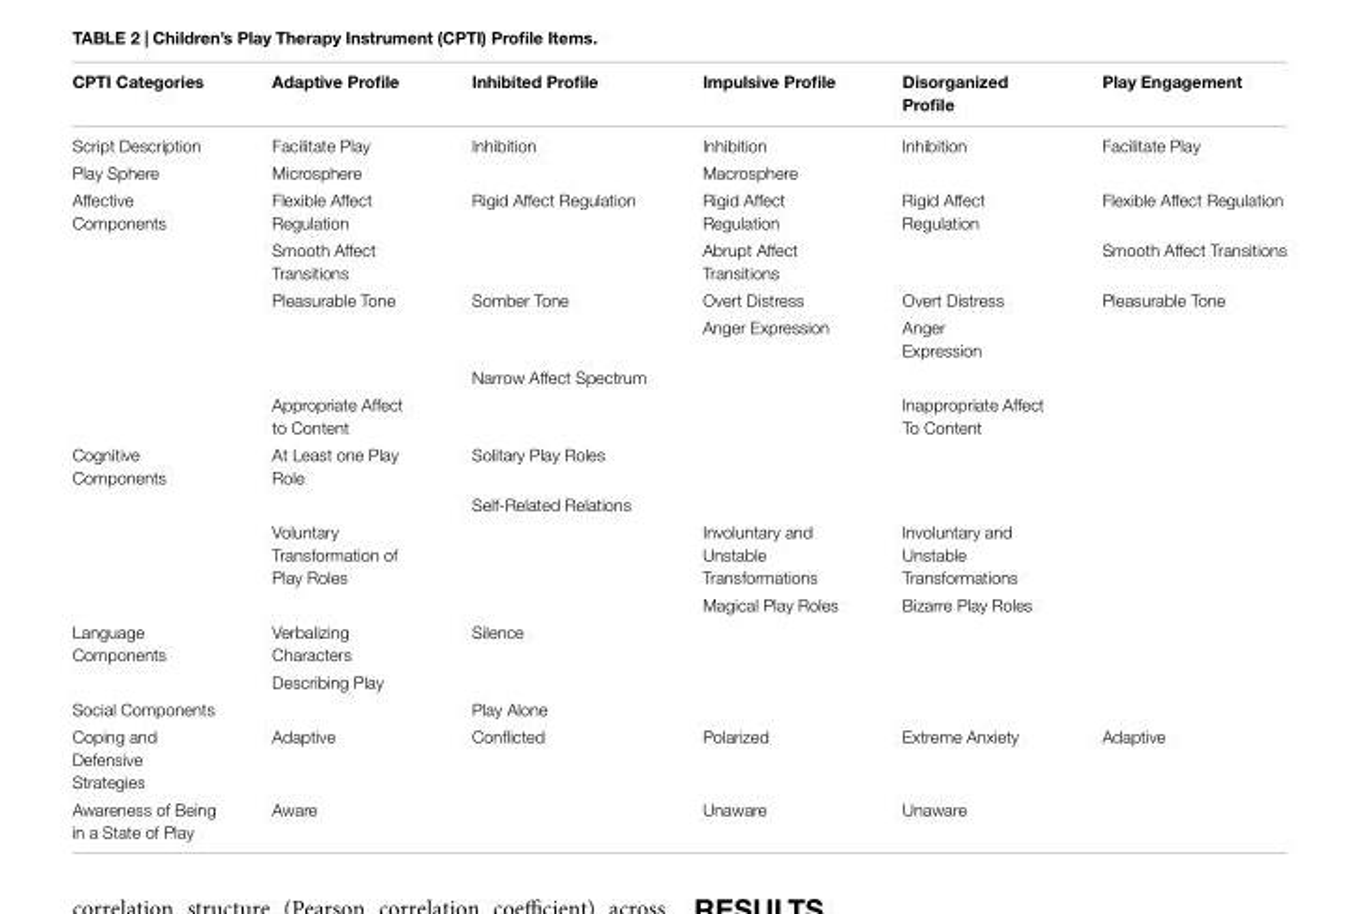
<table><thead><tr><td>CPTI Categories</td><td>Adaptive Profile</td><td>Inhibited Profile</td><td>Impulsive Profile</td><td>Disorganized Profile</td><td>Play Engagement</td></tr></thead><tbody><tr><td>Script Description</td><td>Facilitate Play</td><td>Inhibition</td><td>Inhibition</td><td>Inhibition</td><td>Facilitate Play</td></tr><tr><td>Play Sphere</td><td>Microsphere</td><td></td><td>Macrosphere</td><td></td><td></td></tr><tr><td rowspan="6">Affective Components</td><td>Flexible Affect Regulation</td><td>Rigid Affect Regulation</td><td>Rigid Affect Regulation</td><td>Rigid Affect Regulation</td><td>Flexible Affect Regulation</td></tr><tr><td>Smooth Affect Transitions</td><td></td><td>Abrupt Affect Transitions</td><td></td><td>Smooth Affect Transitions</td></tr><tr><td>Pleasurable Tone</td><td>Somber Tone</td><td>Overt Distress</td><td>Overt Distress</td><td>Pleasurable Tone</td></tr><tr><td></td><td></td><td>Anger Expression</td><td>Anger Expression</td><td></td></tr><tr><td></td><td>Narrow Affect Spectrum</td><td></td><td></td><td></td></tr><tr><td>Appropriate Affect to Content</td><td></td><td></td><td>Inappropriate Affect To Content</td><td></td></tr><tr><td rowspan="4">Cognitive Components</td><td>At Least one Play Role</td><td>Solitary Play Roles</td><td></td><td></td><td></td></tr><tr><td></td><td>Self-Related Relations</td><td></td><td></td><td></td></tr><tr><td>Voluntary Transformation of Play Roles</td><td></td><td>Involuntary and Unstable Transformations</td><td>Involuntary and Unstable Transformations</td><td></td></tr><tr><td></td><td></td><td>Magical Play Roles</td><td>Bizarre Play Roles</td><td></td></tr><tr><td rowspan="2">Language Components</td><td>Verbalizing Characters</td><td>Silence</td><td></td><td></td><td></td></tr><tr><td>Describing Play</td><td></td><td></td><td></td><td></td></tr><tr><td>Social Components</td><td></td><td>Play Alone</td><td></td><td></td><td></td></tr><tr><td>Coping and Defensive Strategies</td><td>Adaptive</td><td>Conflicted</td><td>Polarized</td><td>Extreme Anxiety</td><td>Adaptive</td></tr><tr><td>Awareness of Being in a State of Play</td><td>Aware</td><td></td><td>Unaware</td><td>Unaware</td><td></td></tr></tbody></table>